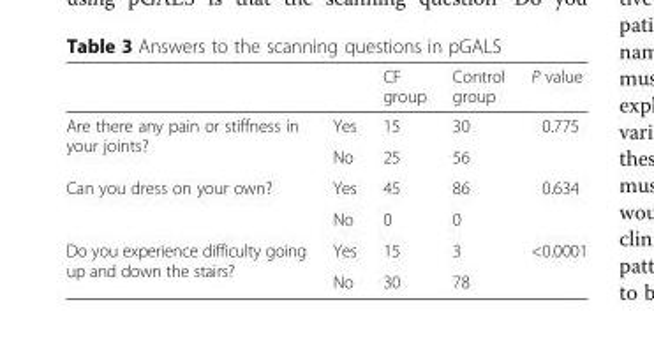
<table><thead><tr><td></td><td></td><td>CF group</td><td>Control group</td><td>P value</td></tr></thead><tbody><tr><td rowspan="2">Are there any pain or stiffness in your joints?</td><td>Yes</td><td>15</td><td>30</td><td rowspan="2">0.775</td></tr><tr><td>No</td><td>25</td><td>56</td></tr><tr><td rowspan="2">Can you dress on your own?</td><td>Yes</td><td>45</td><td>86</td><td rowspan="2">0.634</td></tr><tr><td>No</td><td>0</td><td>0</td></tr><tr><td rowspan="2">Do you experience difficulty going up and down the stairs?</td><td>Yes</td><td>15</td><td>3</td><td rowspan="2">&lt;0.0001</td></tr><tr><td>No</td><td>30</td><td>78</td></tr></tbody></table>